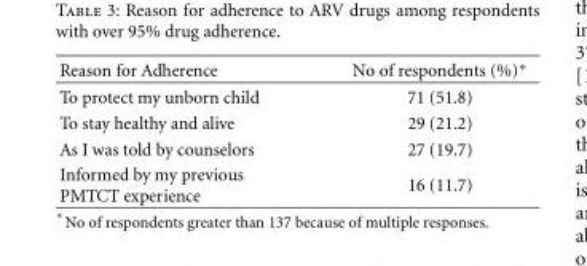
<table><thead><tr><td>Reason for Adherence</td><td>No of respondents (%)∗</td></tr></thead><tbody><tr><td>To protect my unborn child</td><td>71 (51.8)</td></tr><tr><td>To stay healthy and alive</td><td>29 (21.2)</td></tr><tr><td>As I was told by counselors</td><td>27 (19.7)</td></tr><tr><td>Informed by my previous PMTCT experience</td><td>16 (11.7)</td></tr></tbody></table>